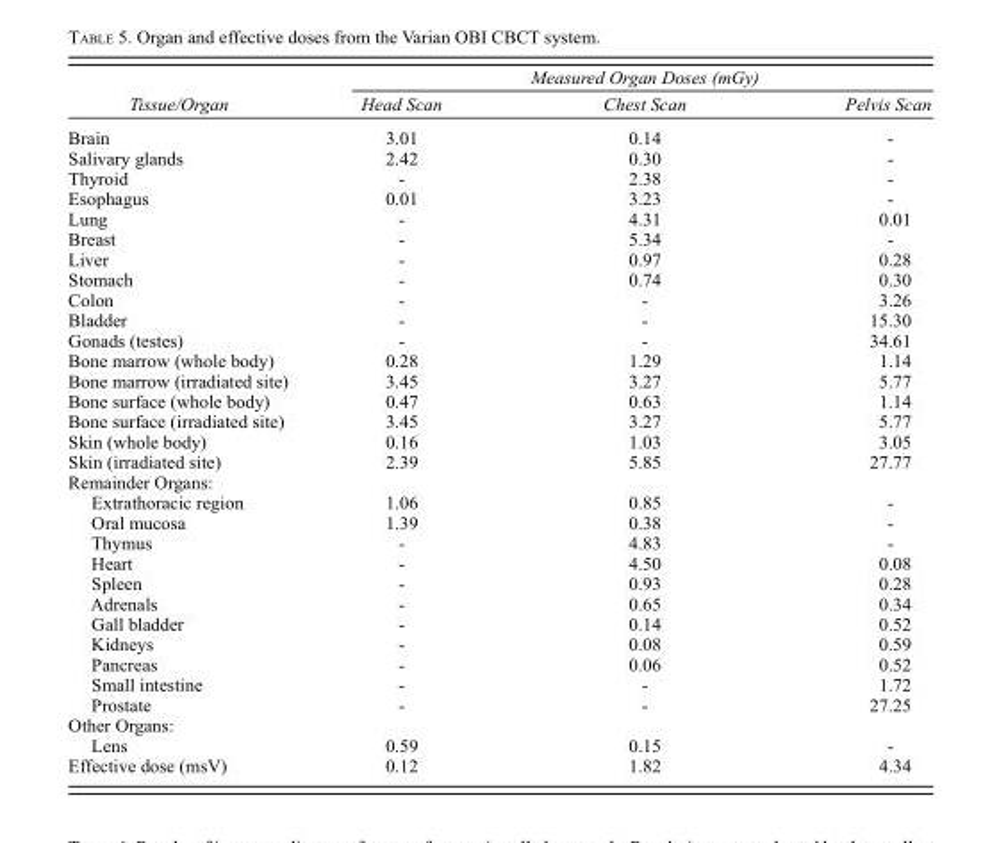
<table><thead><tr><td rowspan="2">Tissue/Organ</td><td colspan="3">Measured Organ Doses (mGy)</td></tr><tr><td>Head Scan</td><td>Chest Scan</td><td>Pelvis Scan</td></tr></thead><tbody><tr><td>Brain</td><td>3.01</td><td>0.14</td><td>-</td></tr><tr><td>Salivary glands</td><td>2.42</td><td>0.30</td><td>-</td></tr><tr><td>Thyroid</td><td>-</td><td>2.38</td><td>-</td></tr><tr><td>Esophagus</td><td>0.01</td><td>3.23</td><td>-</td></tr><tr><td>Lung</td><td>-</td><td>4.31</td><td>0.01</td></tr><tr><td>Breast</td><td>-</td><td>5.34</td><td>-</td></tr><tr><td>Liver</td><td>-</td><td>0.97</td><td>0.28</td></tr><tr><td>Stomach</td><td>-</td><td>0.74</td><td>0.30</td></tr><tr><td>Colon</td><td>-</td><td>-</td><td>3.26</td></tr><tr><td>Bladder</td><td>-</td><td>-</td><td>15.30</td></tr><tr><td>Gonads (testes)</td><td>-</td><td>-</td><td>34.61</td></tr><tr><td>Bone marrow (whole body)</td><td>0.28</td><td>1.29</td><td>1.14</td></tr><tr><td>Bone marrow (irradiated site)</td><td>3.45</td><td>3.27</td><td>5.77</td></tr><tr><td>Bone surface (whole body)</td><td>0.47</td><td>0.63</td><td>1.14</td></tr><tr><td>Bone surface (irradiated site)</td><td>3.45</td><td>3.27</td><td>5.77</td></tr><tr><td>Skin (whole body)</td><td>0.16</td><td>1.03</td><td>3.05</td></tr><tr><td>Skin (irradiated site)</td><td>2.39</td><td>5.85</td><td>27.77</td></tr><tr><td colspan="4">Remainder Organs:</td></tr><tr><td>Extrathoracic region</td><td>1.06</td><td>0.85</td><td>-</td></tr><tr><td>Oral mucosa</td><td>1.39</td><td>0.38</td><td>-</td></tr><tr><td>Thymus</td><td>-</td><td>4.83</td><td>-</td></tr><tr><td>Heart</td><td>-</td><td>4.50</td><td>0.08</td></tr><tr><td>Spleen</td><td>-</td><td>0.93</td><td>0.28</td></tr><tr><td>Adrenals</td><td>-</td><td>0.65</td><td>0.34</td></tr><tr><td>Gall bladder</td><td>-</td><td>0.14</td><td>0.52</td></tr><tr><td>Kidneys</td><td>-</td><td>0.08</td><td>0.59</td></tr><tr><td>Pancreas</td><td>-</td><td>0.06</td><td>0.52</td></tr><tr><td>Small intestine</td><td>-</td><td>-</td><td>1.72</td></tr><tr><td>Prostate</td><td>-</td><td>-</td><td>27.25</td></tr><tr><td colspan="4">Other Organs:</td></tr><tr><td>Lens</td><td>0.59</td><td>0.15</td><td>-</td></tr><tr><td>Effective dose (msV)</td><td>0.12</td><td>1.82</td><td>4.34</td></tr></tbody></table>